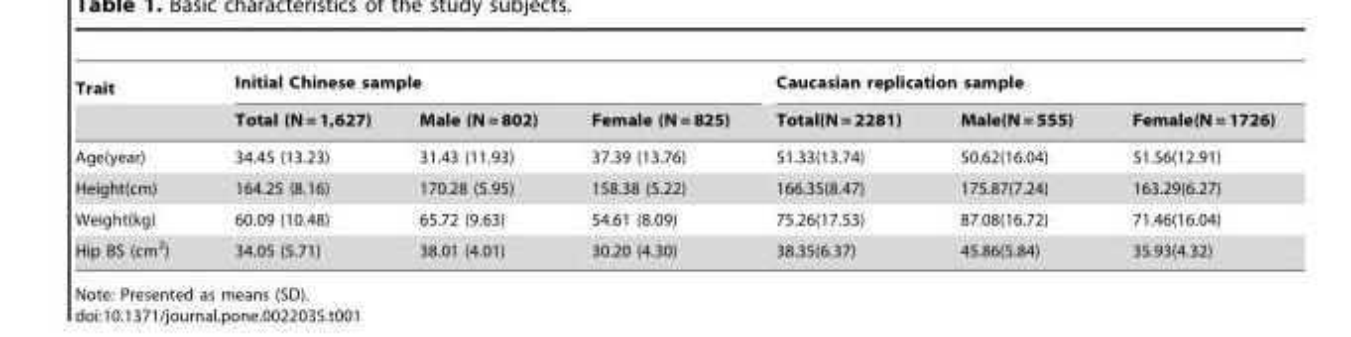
<table><thead><tr><td rowspan="2">Trait</td><td colspan="3">Initial Chinese sample</td><td colspan="3">Caucasian replication sample</td></tr><tr><td>Total (N = 1,627)</td><td>Male (N = 802)</td><td>Female (N = 825)</td><td>Total(N = 2281)</td><td>Male(N = 555)</td><td>Female(N = 1726)</td></tr></thead><tbody><tr><td>Age(year)</td><td>34.45 (13.23)</td><td>31.43 (11.93)</td><td>37.39 (13.76)</td><td>51.33(13.74)</td><td>50.62(16.04)</td><td>51.56(12.91)</td></tr><tr><td>Height(cm)</td><td>164.25 (8.16)</td><td>170.28 (5.95)</td><td>158.38 (5.22)</td><td>166.35(8.47)</td><td>175.87(7.24)</td><td>163.29(6.27)</td></tr><tr><td>Weight(kg)</td><td>60.09 (10.48)</td><td>65.72 (9.63)</td><td>54.61 (8.09)</td><td>75.26(17.53)</td><td>87.08(16.72)</td><td>71.46(16.04)</td></tr><tr><td>Hip BS (cm<sup>2</sup>)</td><td>34.05 (5.71)</td><td>38.01 (4.01)</td><td>30.20 (4.30)</td><td>38.35(6.37)</td><td>45.86(5.84)</td><td>35.93(4.32)</td></tr></tbody></table>